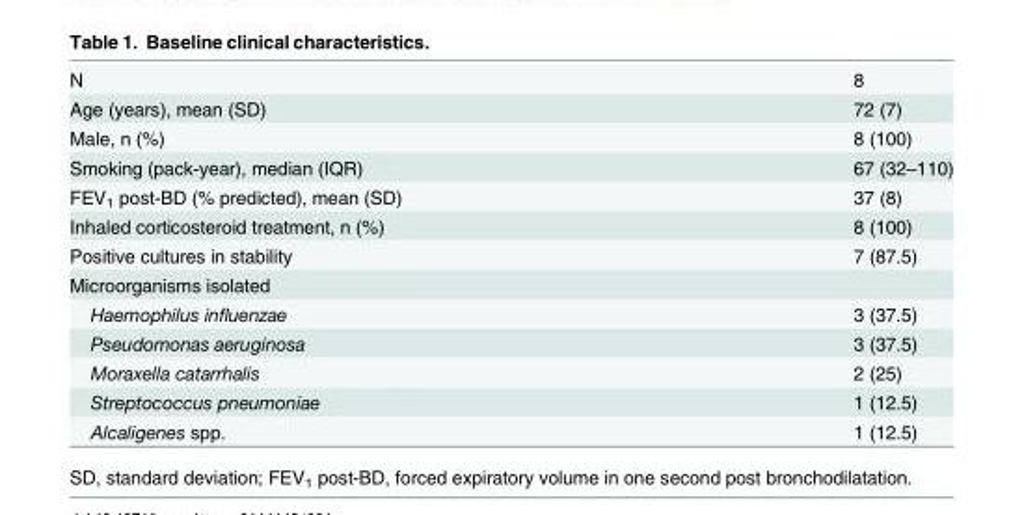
<table><tbody><tr><td>N</td><td>8</td></tr><tr><td>Age (years), mean (SD)</td><td>72 (7)</td></tr><tr><td>Male, n (%)</td><td>8 (100)</td></tr><tr><td>Smoking (pack-year), median (IQR)</td><td>67 (32–110)</td></tr><tr><td>FEV<sub>1</sub> post-BD (% predicted), mean (SD)</td><td>37 (8)</td></tr><tr><td>Inhaled corticosteroid treatment, n (%)</td><td>8 (100)</td></tr><tr><td>Positive cultures in stability</td><td>7 (87.5)</td></tr><tr><td colspan="2">Microorganisms isolated</td></tr><tr><td>Haemophilus influenzae</td><td>3 (37.5)</td></tr><tr><td>Pseudomonas aeruginosa</td><td>3 (37.5)</td></tr><tr><td>Moraxella catarrhalis</td><td>2 (25)</td></tr><tr><td>Streptococcus pneumoniae</td><td>1 (12.5)</td></tr><tr><td>Alcaligenes spp.</td><td>1 (12.5)</td></tr></tbody></table>